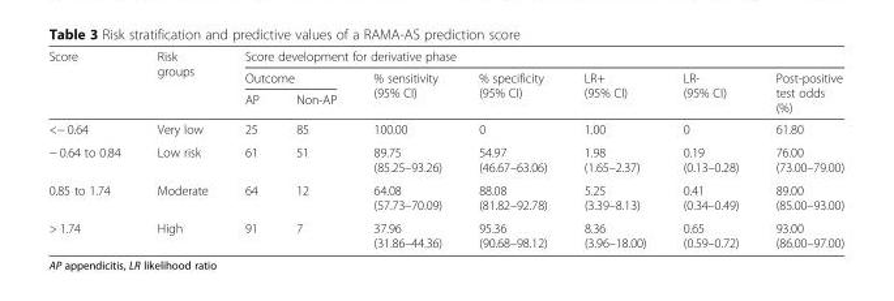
<table><thead><tr><td rowspan="3">Score</td><td rowspan="3">Risk groups</td><td colspan="7">Score development for derivative phase</td></tr><tr><td colspan="2">Outcome</td><td rowspan="2">% sensitivity (95% CI)</td><td rowspan="2">% specificity (95% CI)</td><td rowspan="2">LR+ (95% CI)</td><td rowspan="2">LR- (95% CI)</td><td rowspan="2">Post-positive test odds (%)</td></tr><tr><td>AP</td><td>Non-AP</td></tr></thead><tbody><tr><td>&lt;− 0.64</td><td>Very low</td><td>25</td><td>85</td><td>100.00</td><td>0</td><td>1.00</td><td>0</td><td>61.80</td></tr><tr><td>− 0.64 to 0.84</td><td>Low risk</td><td>61</td><td>51</td><td>89.75 (85.25–93.26)</td><td>54.97 (46.67–63.06)</td><td>1.98 (1.65–2.37)</td><td>0.19 (0.13–0.28)</td><td>76.00 (73.00–79.00)</td></tr><tr><td>0.85 to 1.74</td><td>Moderate</td><td>64</td><td>12</td><td>64.08 (57.73–70.09)</td><td>88.08 (81.82–92.78)</td><td>5.25 (3.39–8.13)</td><td>0.41 (0.34–0.49)</td><td>89.00 (85.00–93.00)</td></tr><tr><td>&gt; 1.74</td><td>High</td><td>91</td><td>7</td><td>37.96 (31.86–44.36)</td><td>95.36 (90.68–98.12)</td><td>8.36 (3.96–18.00)</td><td>0.65 (0.59–0.72)</td><td>93.00 (86.00–97.00)</td></tr></tbody></table>